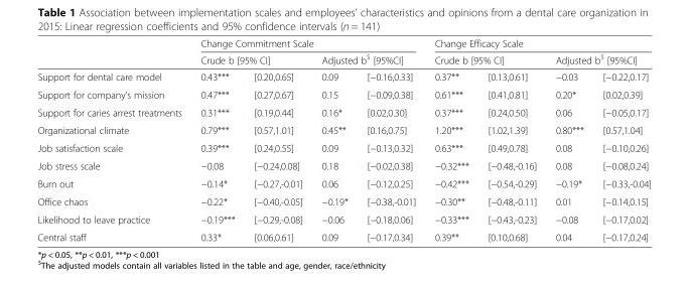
<table><thead><tr><td rowspan="3">Support for dental care model</td><td colspan="4">Change Commitment Scale</td><td colspan="4">Change Efficacy Scale</td></tr><tr><td colspan="2">Crude b [95% CI]</td><td colspan="2">Adjusted b<sup>$</sup> [95%CI]</td><td colspan="2">Crude b [95% CI]</td><td colspan="2">Adjusted b<sup>$</sup> [95%CI]</td></tr><tr><td>0.43***</td><td>[0.20,0.65]</td><td>0.09</td><td>[−0.16,0.33]</td><td>0.37**</td><td>[0.13,0.61]</td><td>−0.03</td><td>[−0.22,0.17]</td></tr></thead><tbody><tr><td>Support for company’s mission</td><td>0.47***</td><td>[0.27,0.67]</td><td>0.15</td><td>[−0.09,0.38]</td><td>0.61***</td><td>[0.41,0.81]</td><td>0.20*</td><td>[0.02,0.39]</td></tr><tr><td>Support for caries arrest treatments</td><td>0.31***</td><td>[0.19,0.44]</td><td>0.16*</td><td>[0.02,0.30]</td><td>0.37***</td><td>[0.24,0.50]</td><td>0.06</td><td>[−0.05,0.17]</td></tr><tr><td>Organizational climate</td><td>0.79***</td><td>[0.57,1.01]</td><td>0.45**</td><td>[0.16,0.75]</td><td>1.20***</td><td>[1.02,1.39]</td><td>0.80***</td><td>[0.57,1.04]</td></tr><tr><td>Job satisfaction scale</td><td>0.39***</td><td>[0.24,0.55]</td><td>0.09</td><td>[−0.13,0.32]</td><td>0.63***</td><td>[0.49,0.78]</td><td>0.08</td><td>[−0.10,0.26]</td></tr><tr><td>Job stress scale</td><td>−0.08</td><td>[−0.24,0.08]</td><td>0.18</td><td>[−0.02,0.38]</td><td>−0.32***</td><td>[−0.48,-0.16]</td><td>0.08</td><td>[−0.08,0.24]</td></tr><tr><td>Burn out</td><td>−0.14*</td><td>[−0.27,-0.01]</td><td>0.06</td><td>[−0.12,0.25]</td><td>−0.42***</td><td>[−0.54,-0.29]</td><td>−0.19*</td><td>[−0.33,-0.04]</td></tr><tr><td>Office chaos</td><td>−0.22*</td><td>[−0.40,-0.05]</td><td>−0.19*</td><td>[−0.38,-0.01]</td><td>−0.30**</td><td>[−0.48,-0.11]</td><td>0.01</td><td>[−0.14,0.15]</td></tr><tr><td>Likelihood to leave practice</td><td>−0.19***</td><td>[−0.29,-0.08]</td><td>−0.06</td><td>[−0.18,0.06]</td><td>−0.33***</td><td>[−0.43,-0.23]</td><td>−0.08</td><td>[−0.17,0.02]</td></tr><tr><td>Central staff</td><td>0.33*</td><td>[0.06,0.61]</td><td>0.09</td><td>[−0.17,0.34]</td><td>0.39**</td><td>[0.10,0.68]</td><td>0.04</td><td>[−0.17,0.24]</td></tr></tbody></table>